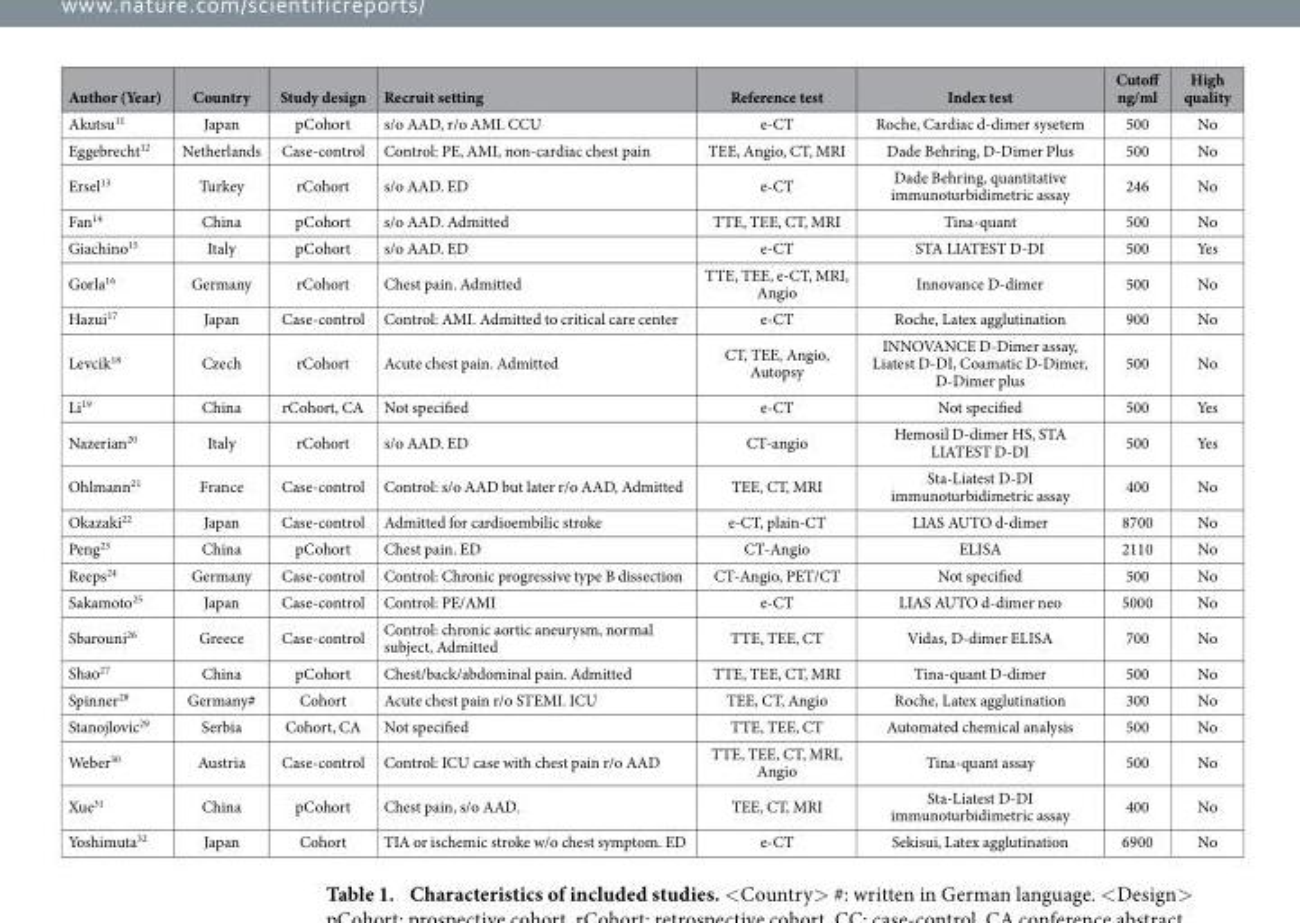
<table><thead><tr><td>Author (Year)</td><td>Country</td><td>Study design</td><td>Recruit setting</td><td>Reference test</td><td>Index test</td><td>Cutoff ng/ml</td><td>High quality</td></tr></thead><tbody><tr><td>Akutsu<sup>11</sup></td><td>Japan</td><td>pCohort</td><td>s/o AAD, r/o AMI. CCU</td><td>e-CT</td><td>Roche, Cardiac d-dimer sysetem</td><td>500</td><td>No</td></tr><tr><td>Eggebrecht<sup>12</sup></td><td>Netherlands</td><td>Case-control</td><td>Control: PE, AMI, non-cardiac chest pain</td><td>TEE, Angio, CT, MRI</td><td>Dade Behring, D-Dimer Plus</td><td>500</td><td>No</td></tr><tr><td>Ersel<sup>13</sup></td><td>Turkey</td><td>rCohort</td><td>s/o AAD. ED</td><td>e-CT</td><td>Dade Behring, quantitative immunoturbidimetric assay</td><td>246</td><td>No</td></tr><tr><td>Fan<sup>14</sup></td><td>China</td><td>pCohort</td><td>s/o AAD. Admitted</td><td>TTE, TEE, CT, MRI</td><td>Tina-quant</td><td>500</td><td>No</td></tr><tr><td>Giachino<sup>15</sup></td><td>Italy</td><td>pCohort</td><td>s/o AAD. ED</td><td>e-CT</td><td>STA LIATEST D-DI</td><td>500</td><td>Yes</td></tr><tr><td>Gorla<sup>16</sup></td><td>Germany</td><td>rCohort</td><td>Chest pain. Admitted</td><td>TTE, TEE, e-CT, MRI, Angio</td><td>Innovance D-dimer</td><td>500</td><td>No</td></tr><tr><td>Hazui<sup>17</sup></td><td>Japan</td><td>Case-control</td><td>Control: AMI. Admitted to critical care center</td><td>e-CT</td><td>Roche, Latex agglutination</td><td>900</td><td>No</td></tr><tr><td>Levcik<sup>18</sup></td><td>Czech</td><td>rCohort</td><td>Acute chest pain. Admitted</td><td>CT, TEE, Angio, Autopsy</td><td>INNOVANCE D-Dimer assay, Liatest D-DI, Coamatic D-Dimer, D-Dimer plus</td><td>500</td><td>No</td></tr><tr><td>Li<sup>19</sup></td><td>China</td><td>rCohort, CA</td><td>Not specified</td><td>e-CT</td><td>Not specified</td><td>500</td><td>Yes</td></tr><tr><td>Nazerian<sup>20</sup></td><td>Italy</td><td>rCohort</td><td>s/o AAD. ED</td><td>CT-angio</td><td>Hemosil D-dimer HS, STA LIATEST D-DI</td><td>500</td><td>Yes</td></tr><tr><td>Ohlmann<sup>21</sup></td><td>France</td><td>Case-control</td><td>Control: s/o AAD but later r/o AAD, Admitted</td><td>TEE, CT, MRI</td><td>Sta-Liatest D-DI immunoturbidimetric assay</td><td>400</td><td>No</td></tr><tr><td>Okazaki<sup>22</sup></td><td>Japan</td><td>Case-control</td><td>Admitted for cardioembilic stroke</td><td>e-CT, plain-CT</td><td>LIAS AUTO d-dimer</td><td>8700</td><td>No</td></tr><tr><td>Peng<sup>23</sup></td><td>China</td><td>pCohort</td><td>Chest pain. ED</td><td>CT-Angio</td><td>ELISA</td><td>2110</td><td>No</td></tr><tr><td>Reeps<sup>24</sup></td><td>Germany</td><td>Case-control</td><td>Control: Chronic progressive type B dissection</td><td>CT-Angio, PET/CT</td><td>Not specified</td><td>500</td><td>No</td></tr><tr><td>Sakamoto<sup>25</sup></td><td>Japan</td><td>Case-control</td><td>Control: PE/AMI</td><td>e-CT</td><td>LIAS AUTO d-dimer neo</td><td>5000</td><td>No</td></tr><tr><td>Sbarouni<sup>26</sup></td><td>Greece</td><td>Case-control</td><td>Control: chronic aortic aneurysm, normal subject, Admitted</td><td>TTE, TEE, CT</td><td>Vidas, D-dimer ELISA</td><td>700</td><td>No</td></tr><tr><td>Shao<sup>27</sup></td><td>China</td><td>pCohort</td><td>Chest/back/abdominal pain. Admitted</td><td>TTE, TEE, CT, MRI</td><td>Tina-quant D-dimer</td><td>500</td><td>No</td></tr><tr><td>Spinner<sup>28</sup></td><td>Germany#</td><td>Cohort</td><td>Acute chest pain r/o STEMI. ICU</td><td>TEE, CT, Angio</td><td>Roche, Latex agglutination</td><td>300</td><td>No</td></tr><tr><td>Stanojlovic<sup>29</sup></td><td>Serbia</td><td>Cohort, CA</td><td>Not specified</td><td>TTE, TEE, CT</td><td>Automated chemical analysis</td><td>500</td><td>No</td></tr><tr><td>Weber<sup>30</sup></td><td>Austria</td><td>Case-control</td><td>Control: ICU case with chest pain r/o AAD</td><td>TTE, TEE, CT, MRI, Angio</td><td>Tina-quant assay</td><td>500</td><td>No</td></tr><tr><td>Xue<sup>31</sup></td><td>China</td><td>pCohort</td><td>Chest pain, s/o AAD.</td><td>TEE, CT, MRI</td><td>Sta-Liatest D-DI immunoturbidimetric assay</td><td>400</td><td>No</td></tr><tr><td>Yoshimuta<sup>32</sup></td><td>Japan</td><td>Cohort</td><td>TIA or ischemic stroke w/o chest symptom. ED</td><td>e-CT</td><td>Sekisui, Latex agglutination</td><td>6900</td><td>No</td></tr></tbody></table>